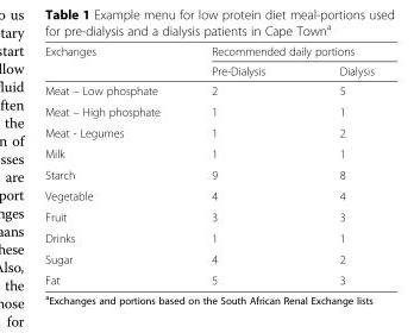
<table><thead><tr><td rowspan="2">Exchanges</td><td colspan="2">Recommended daily portions</td></tr><tr><td>Pre-Dialysis</td><td>Dialysis</td></tr></thead><tbody><tr><td>Meat – Low phosphate</td><td>2</td><td>5</td></tr><tr><td>Meat – High phosphate</td><td>1</td><td>1</td></tr><tr><td>Meat - Legumes</td><td>1</td><td>2</td></tr><tr><td>Milk</td><td>1</td><td>1</td></tr><tr><td>Starch</td><td>9</td><td>8</td></tr><tr><td>Vegetable</td><td>4</td><td>4</td></tr><tr><td>Fruit</td><td>3</td><td>3</td></tr><tr><td>Drinks</td><td>1</td><td>1</td></tr><tr><td>Sugar</td><td>4</td><td>2</td></tr><tr><td>Fat</td><td>5</td><td>3</td></tr></tbody></table>